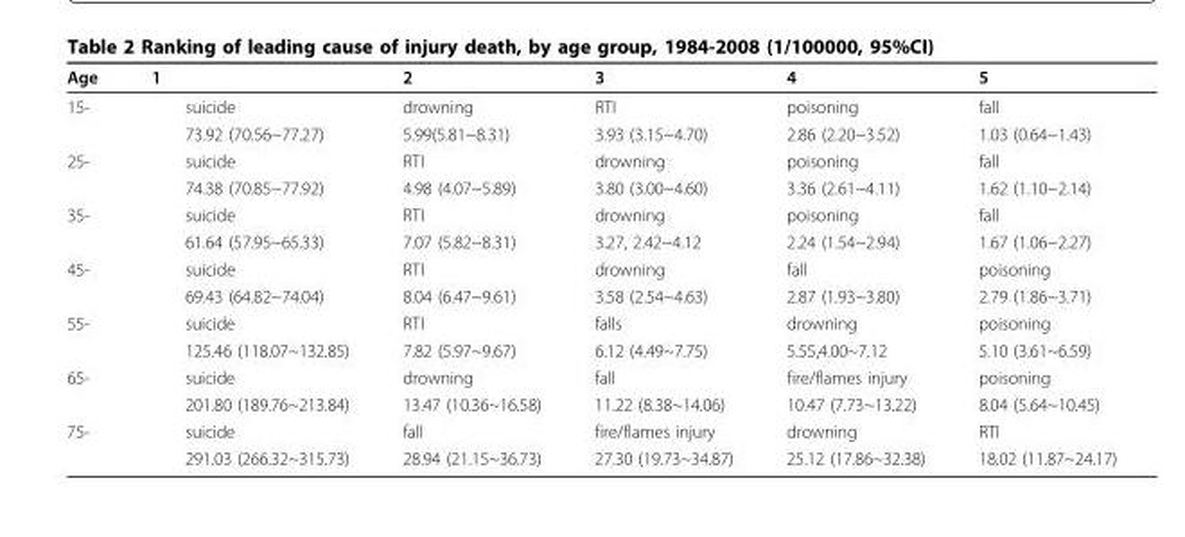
<table><thead><tr><td>Age</td><td>1</td><td>2</td><td>3</td><td>4</td><td>5</td></tr></thead><tbody><tr><td rowspan="2">15-</td><td>suicide</td><td>drowning</td><td>RTI</td><td>poisoning</td><td>fall</td></tr><tr><td>73.92 (70.56~77.27)</td><td>5.99(5.81~8.31)</td><td>3.93 (3.15~4.70)</td><td>2.86 (2.20~3.52)</td><td>1.03 (0.64~1.43)</td></tr><tr><td rowspan="2">25-</td><td>suicide</td><td>RTI</td><td>drowning</td><td>poisoning</td><td>fall</td></tr><tr><td>74.38 (70.85~77.92)</td><td>4.98 (4.07~5.89)</td><td>3.80 (3.00~4.60)</td><td>3.36 (2.61~4.11)</td><td>1.62 (1.10~2.14)</td></tr><tr><td rowspan="2">35-</td><td>suicide</td><td>RTI</td><td>drowning</td><td>poisoning</td><td>fall</td></tr><tr><td>61.64 (57.95~65.33)</td><td>7.07 (5.82~8.31)</td><td>3.27, 2.42~4.12</td><td>2.24 (1.54~2.94)</td><td>1.67 (1.06~2.27)</td></tr><tr><td rowspan="2">45-</td><td>suicide</td><td>RTI</td><td>drowning</td><td>fall</td><td>poisoning</td></tr><tr><td>69.43 (64.82~74.04)</td><td>8.04 (6.47~9.61)</td><td>3.58 (2.54~4.63)</td><td>2.87 (1.93~3.80)</td><td>2.79 (1.86~3.71)</td></tr><tr><td rowspan="2">55-</td><td>suicide</td><td>RTI</td><td>falls</td><td>drowning</td><td>poisoning</td></tr><tr><td>125.46 (118.07~132.85)</td><td>7.82 (5.97~9.67)</td><td>6.12 (4.49~7.75)</td><td>5.55,4.00~7.12</td><td>5.10 (3.61~6.59)</td></tr><tr><td rowspan="2">65-</td><td>suicide</td><td>drowning</td><td>fall</td><td>fire/flames injury</td><td>poisoning</td></tr><tr><td>201.80 (189.76~213.84)</td><td>13.47 (10.36~16.58)</td><td>11.22 (8.38~14.06)</td><td>10.47 (7.73~13.22)</td><td>8.04 (5.64~10.45)</td></tr><tr><td rowspan="2">75-</td><td>suicide</td><td>fall</td><td>fire/flames injury</td><td>drowning</td><td>RTI</td></tr><tr><td>291.03 (266.32~315.73)</td><td>28.94 (21.15~36.73)</td><td>27.30 (19.73~34.87)</td><td>25.12 (17.86~32.38)</td><td>18.02 (11.87~24.17)</td></tr></tbody></table>